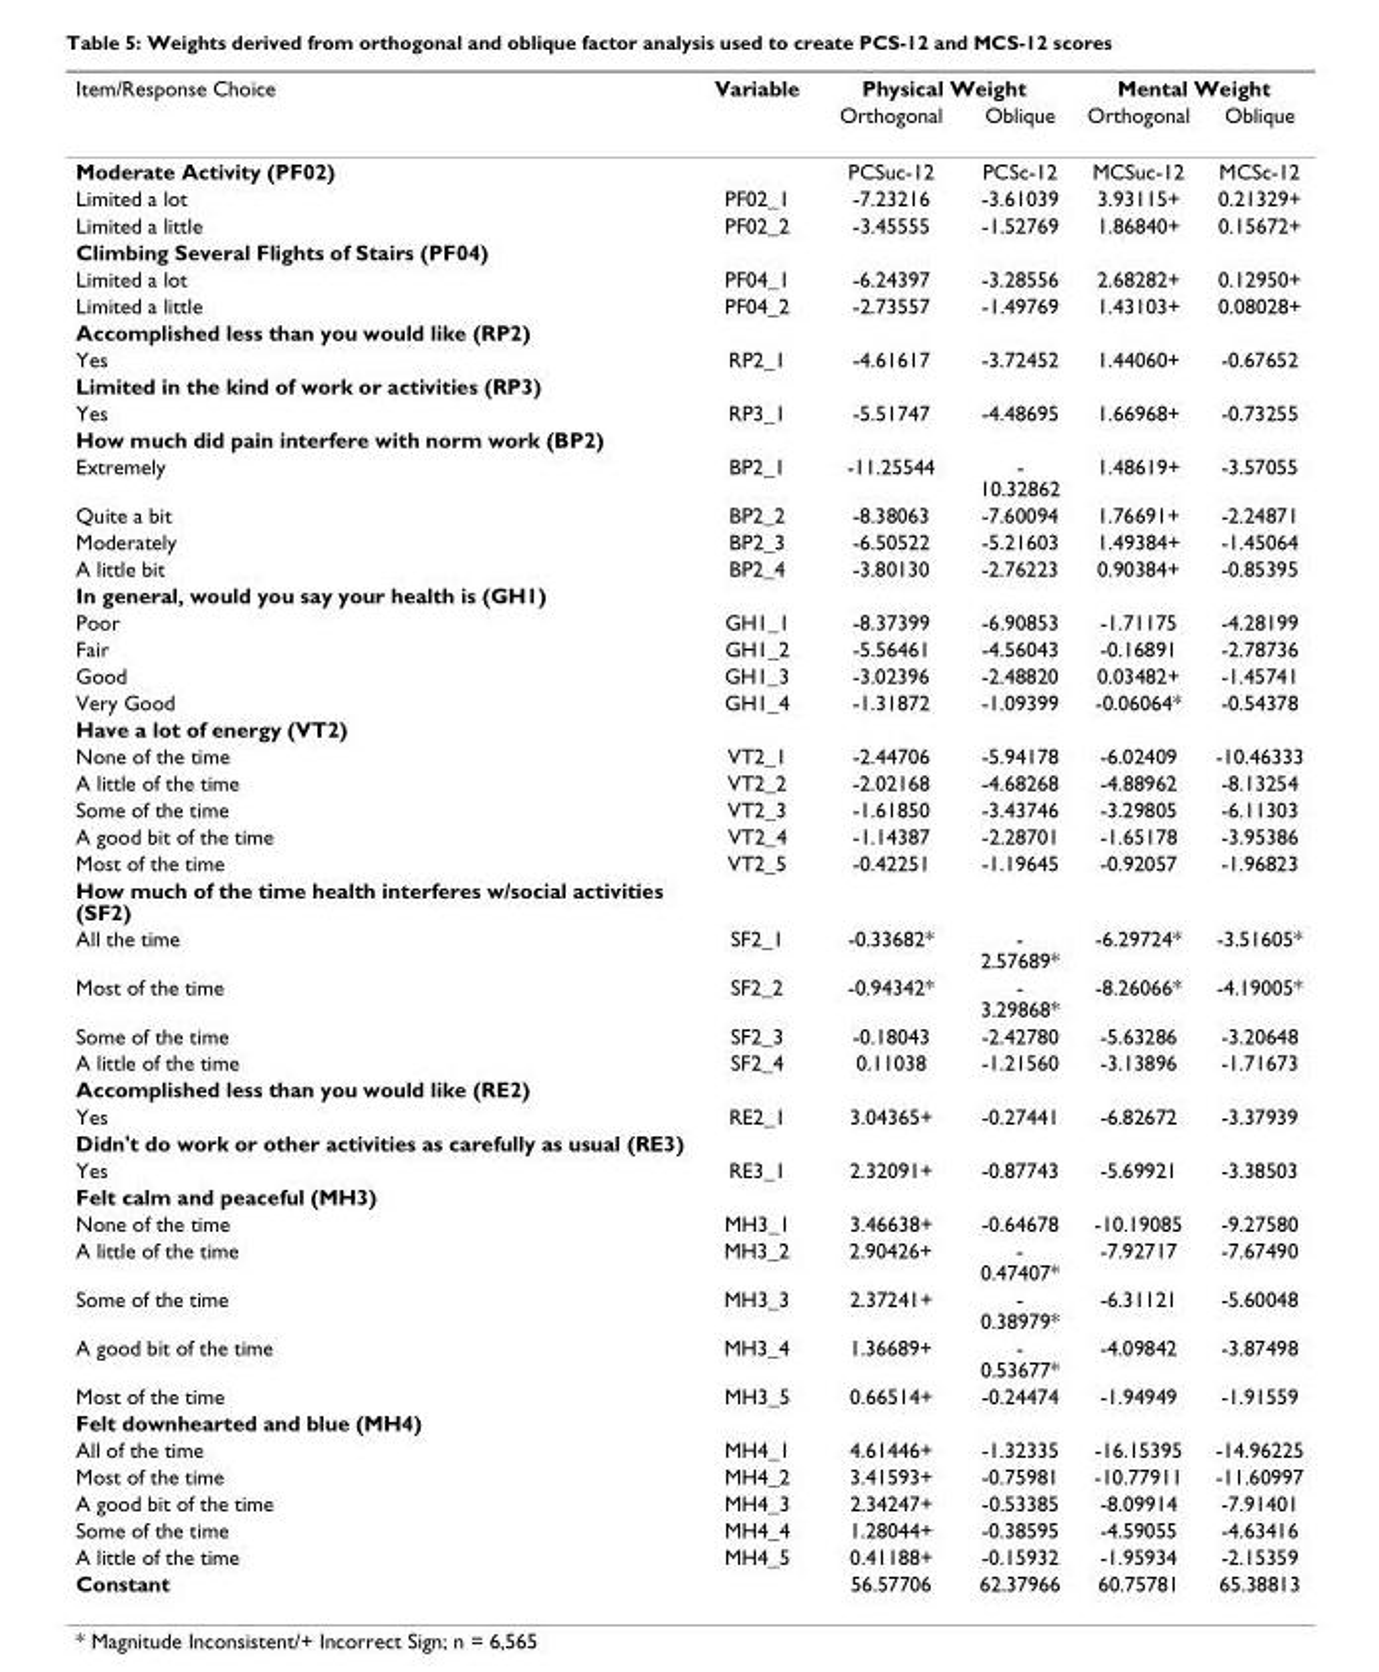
<table><thead><tr><td rowspan="2">Item/Response Choice</td><td rowspan="2">Variable</td><td colspan="2">Physical Weight</td><td colspan="2">Mental Weight</td></tr><tr><td>Orthogonal</td><td>Oblique</td><td>Orthogonal</td><td>Oblique</td></tr></thead><tbody><tr><td>Moderate Activity (PF02)</td><td></td><td>PCSuc-12</td><td>PCSc-12</td><td>MCSuc-12</td><td>MCSc-12</td></tr><tr><td>Limited a lot</td><td>PF02_1</td><td>-7.23216</td><td>-3.61039</td><td>3.93115+</td><td>0.21329+</td></tr><tr><td>Limited a little</td><td>PF02_2</td><td>-3.45555</td><td>-1.52769</td><td>1.86840+</td><td>0.15672+</td></tr><tr><td colspan="6">Climbing Several Flights of Stairs (PF04)</td></tr><tr><td>Limited a lot</td><td>PF04_1</td><td>-6.24397</td><td>-3.28556</td><td>2.68282+</td><td>0.12950+</td></tr><tr><td>Limited a little</td><td>PF04_2</td><td>-2.73557</td><td>-1.49769</td><td>1.43103+</td><td>0.08028+</td></tr><tr><td colspan="6">Accomplished less than you would like (RP2)</td></tr><tr><td>Yes</td><td>RP2_1</td><td>-4.61617</td><td>-3.72452</td><td>1.44060+</td><td>-0.67652</td></tr><tr><td colspan="6">Limited in the kind of work or activities (RP3)</td></tr><tr><td>Yes</td><td>RP3_1</td><td>-5.51747</td><td>-4.48695</td><td>1.66968+</td><td>-0.73255</td></tr><tr><td colspan="6">How much did pain interfere with norm work (BP2)</td></tr><tr><td>Extremely</td><td>BP2_1</td><td>-11.25544</td><td>- 10.32862</td><td>1.48619+</td><td>-3.57055</td></tr><tr><td>Quite a bit</td><td>BP2_2</td><td>-8.38063</td><td>-7.60094</td><td>1.76691+</td><td>-2.24871</td></tr><tr><td>Moderately</td><td>BP2_3</td><td>-6.50522</td><td>-5.21603</td><td>1.49384+</td><td>-1.45064</td></tr><tr><td>A little bit</td><td>BP2_4</td><td>-3.80130</td><td>-2.76223</td><td>0.90384+</td><td>-0.85395</td></tr><tr><td colspan="6">In general, would you say your health is (GH1)</td></tr><tr><td>Poor</td><td>GH1_1</td><td>-8.37399</td><td>-6.90853</td><td>-1.71175</td><td>-4.28199</td></tr><tr><td>Fair</td><td>GH1_2</td><td>-5.56461</td><td>-4.56043</td><td>-0.16891</td><td>-2.78736</td></tr><tr><td>Good</td><td>GH1_3</td><td>-3.02396</td><td>-2.48820</td><td>0.03482+</td><td>-1.45741</td></tr><tr><td>Very Good</td><td>GH1_4</td><td>-1.31872</td><td>-1.09399</td><td>-0.06064*</td><td>-0.54378</td></tr><tr><td colspan="6">Have a lot of energy (VT2)</td></tr><tr><td>None of the time</td><td>VT2_1</td><td>-2.44706</td><td>-5.94178</td><td>-6.02409</td><td>-10.46333</td></tr><tr><td>A little of the time</td><td>VT2_2</td><td>-2.02168</td><td>-4.68268</td><td>-4.88962</td><td>-8.13254</td></tr><tr><td>Some of the time</td><td>VT2_3</td><td>-1.61850</td><td>-3.43746</td><td>-3.29805</td><td>-6.11303</td></tr><tr><td>A good bit of the time</td><td>VT2_4</td><td>-1.14387</td><td>-2.28701</td><td>-1.65178</td><td>-3.95386</td></tr><tr><td>Most of the time</td><td>VT2_5</td><td>-0.42251</td><td>-1.19645</td><td>-0.92057</td><td>-1.96823</td></tr><tr><td colspan="6">How much of the time health interferes w/social activities (SF2)</td></tr><tr><td>All the time</td><td>SF2_1</td><td>-0.33682*</td><td>- 2.57689*</td><td>-6.29724*</td><td>-3.51605*</td></tr><tr><td>Most of the time</td><td>SF2_2</td><td>-0.94342*</td><td>- 3.29868*</td><td>-8.26066*</td><td>-4.19005*</td></tr><tr><td>Some of the time</td><td>SF2_3</td><td>-0.18043</td><td>-2.42780</td><td>-5.63286</td><td>-3.20648</td></tr><tr><td>A little of the time</td><td>SF2_4</td><td>0.11038</td><td>-1.21560</td><td>-3.13896</td><td>-1.71673</td></tr><tr><td colspan="6">Accomplished less than you would like (RE2)</td></tr><tr><td>Yes</td><td>RE2_1</td><td>3.04365+</td><td>-0.27441</td><td>-6.82672</td><td>-3.37939</td></tr><tr><td colspan="6">Didn&#x27;t do work or other activities as carefully as usual (RE3)</td></tr><tr><td>Yes</td><td>RE3_1</td><td>2.32091+</td><td>-0.87743</td><td>-5.69921</td><td>-3.38503</td></tr><tr><td colspan="6">Felt calm and peaceful (MH3)</td></tr><tr><td>None of the time</td><td>MH3_1</td><td>3.46638+</td><td>-0.64678</td><td>-10.19085</td><td>-9.27580</td></tr><tr><td>A little of the time</td><td>MH3_2</td><td>2.90426+</td><td>- 0.47407*</td><td>-7.92717</td><td>-7.67490</td></tr><tr><td>Some of the time</td><td>MH3_3</td><td>2.37241+</td><td>- 0.38979*</td><td>-6.31121</td><td>-5.60048</td></tr><tr><td>A good bit of the time</td><td>MH3_4</td><td>1.36689+</td><td>- 0.53677*</td><td>-4.09842</td><td>-3.87498</td></tr><tr><td>Most of the time</td><td>MH3_5</td><td>0.66514+</td><td>-0.24474</td><td>-1.94949</td><td>-1.91559</td></tr><tr><td colspan="6">Felt downhearted and blue (MH4)</td></tr><tr><td>All of the time</td><td>MH4_1</td><td>4.61446+</td><td>-1.32335</td><td>-16.15395</td><td>-14.96225</td></tr><tr><td>Most of the time</td><td>MH4_2</td><td>3.41593+</td><td>-0.75981</td><td>-10.77911</td><td>-11.60997</td></tr><tr><td>A good bit of the time</td><td>MH4_3</td><td>2.34247+</td><td>-0.53385</td><td>-8.09914</td><td>-7.91401</td></tr><tr><td>Some of the time</td><td>MH4_4</td><td>1.28044+</td><td>-0.38595</td><td>-4.59055</td><td>-4.63416</td></tr><tr><td>A little of the time</td><td>MH4_5</td><td>0.41188+</td><td>-0.15932</td><td>-1.95934</td><td>-2.15359</td></tr><tr><td>Constant</td><td></td><td>56.57706</td><td>62.37966</td><td>60.75781</td><td>65.38813</td></tr></tbody></table>